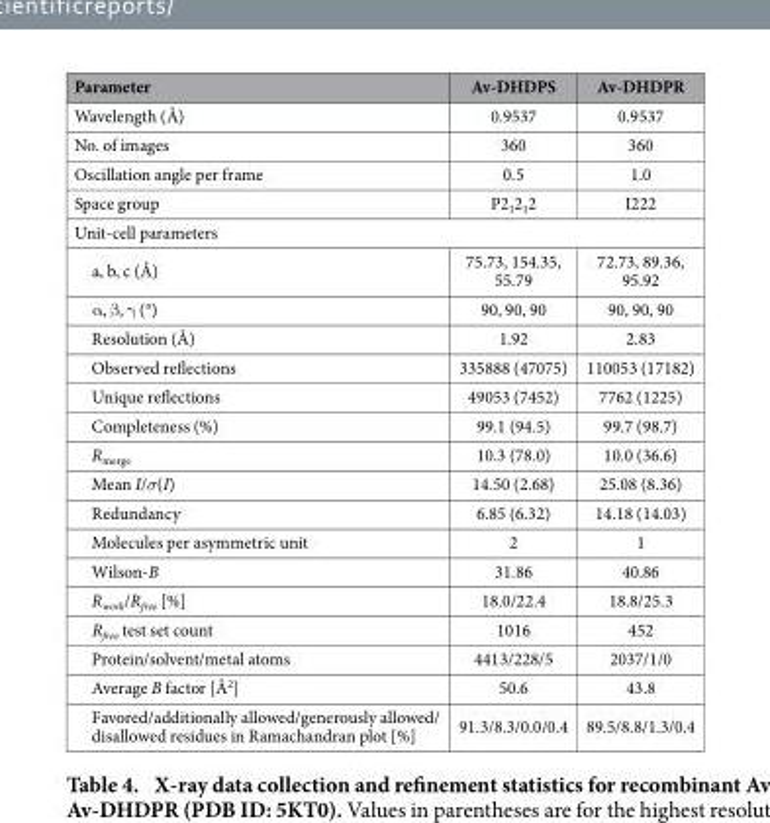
<table><thead><tr><td>Parameter</td><td>Av-DHDPS</td><td>Av-DHDPR</td></tr></thead><tbody><tr><td>Wavelength (Å)</td><td>0.9537</td><td>0.9537</td></tr><tr><td>No. of images</td><td>360</td><td>360</td></tr><tr><td>Oscillation angle per frame</td><td>0.5</td><td>1.0</td></tr><tr><td>Space group</td><td>P2<sub>1</sub>2<sub>1</sub>2</td><td>I222</td></tr><tr><td colspan="3">Unit-cell parameters</td></tr><tr><td>a, b, c (Å)</td><td>75.73, 154.35, 55.79</td><td>72.73, 89.36, 95.92</td></tr><tr><td>α , β , γ (°)</td><td>90, 90, 90</td><td>90, 90, 90</td></tr><tr><td>Resolution (Å)</td><td>1.92</td><td>2.83</td></tr><tr><td>Observed reflections</td><td>335888 (47075)</td><td>110053 (17182)</td></tr><tr><td>Unique reflections</td><td>49053 (7452)</td><td>7762 (1225)</td></tr><tr><td>Completeness (%)</td><td>99.1 (94.5)</td><td>99.7 (98.7)</td></tr><tr><td>R<sub>merge</sub></td><td>10.3 (78.0)</td><td>10.0 (36.6)</td></tr><tr><td>Mean I/σ(I)</td><td>14.50 (2.68)</td><td>25.08 (8.36)</td></tr><tr><td>Redundancy</td><td>6.85 (6.32)</td><td>14.18 (14.03)</td></tr><tr><td>Molecules per asymmetric unit</td><td>2</td><td>1</td></tr><tr><td>Wilson-B</td><td>31.86</td><td>40.86</td></tr><tr><td>R<sub>work</sub>/R<sub>free</sub> [%]</td><td>18.0/22.4</td><td>18.8/25.3</td></tr><tr><td>R<sub>free</sub> test set count</td><td>1016</td><td>452</td></tr><tr><td>Protein/solvent/metal atoms</td><td>4413/228/5</td><td>2037/1/0</td></tr><tr><td>Average B factor [Å<sup>2</sup>]</td><td>50.6</td><td>43.8</td></tr><tr><td>Favored/additionally allowed/generously allowed/ disallowed residues in Ramachandran plot [%]</td><td>91.3/8.3/0.0/0.4</td><td>89.5/8.8/1.3/0.4</td></tr></tbody></table>